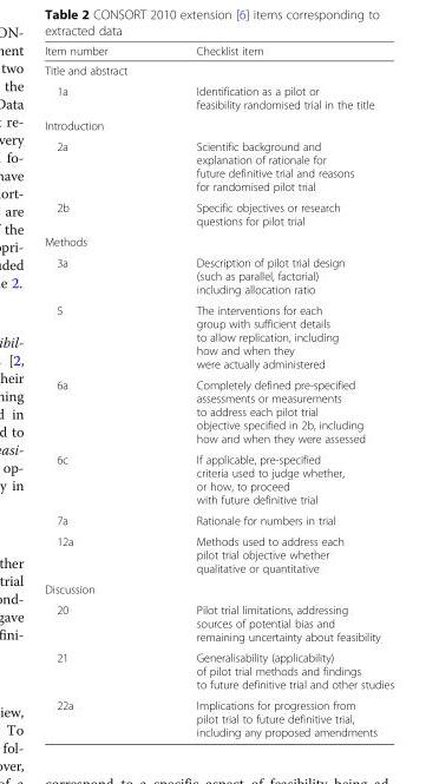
<table><thead><tr><td>Item number</td><td>Checklist item</td></tr></thead><tbody><tr><td colspan="2">Title and abstract</td></tr><tr><td>1a</td><td>Identification as a pilot or feasibility randomised trial in the title</td></tr><tr><td colspan="2">Introduction</td></tr><tr><td>2a</td><td>Scientific background and explanation of rationale for future definitive trial and reasons for randomised pilot trial</td></tr><tr><td>2b</td><td>Specific objectives or research questions for pilot trial</td></tr><tr><td colspan="2">Methods</td></tr><tr><td>3a</td><td>Description of pilot trial design (such as parallel, factorial) including allocation ratio</td></tr><tr><td>5</td><td>The interventions for each group with sufficient details to allow replication, including how and when they were actually administered</td></tr><tr><td>6a</td><td>Completely defined pre-specified assessments or measurements to address each pilot trial objective specified in 2b, including how and when they were assessed</td></tr><tr><td>6c</td><td>If applicable, pre-specified criteria used to judge whether, or how, to proceed with future definitive trial</td></tr><tr><td>7a</td><td>Rationale for numbers in trial</td></tr><tr><td>12a</td><td>Methods used to address each pilot trial objective whether qualitative or quantitative</td></tr><tr><td colspan="2">Discussion</td></tr><tr><td>20</td><td>Pilot trial limitations, addressing sources of potential bias and remaining uncertainty about feasibility</td></tr><tr><td>21</td><td>Generalisability (applicability) of pilot trial methods and findings to future definitive trial and other studies</td></tr><tr><td>22a</td><td>Implications for progression from pilot trial to future definitive trial, including any proposed amendments</td></tr></tbody></table>